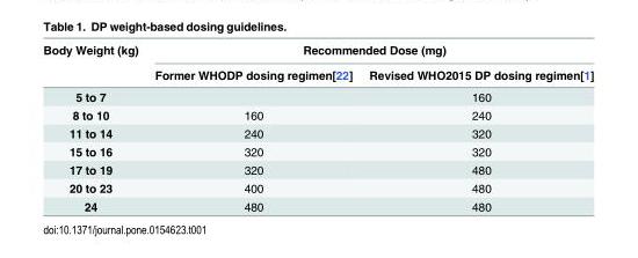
<table><thead><tr><td rowspan="2">Body Weight (kg)</td><td colspan="2">Recommended Dose (mg)</td></tr><tr><td>Former WHODP dosing regimen[22]</td><td>Revised WHO2015 DP dosing regimen[1]</td></tr></thead><tbody><tr><td>5 to 7</td><td></td><td>160</td></tr><tr><td>8 to 10</td><td>160</td><td>240</td></tr><tr><td>11 to 14</td><td>240</td><td>320</td></tr><tr><td>15 to 16</td><td>320</td><td>320</td></tr><tr><td>17 to 19</td><td>320</td><td>480</td></tr><tr><td>20 to 23</td><td>400</td><td>480</td></tr><tr><td>24</td><td>480</td><td>480</td></tr></tbody></table>